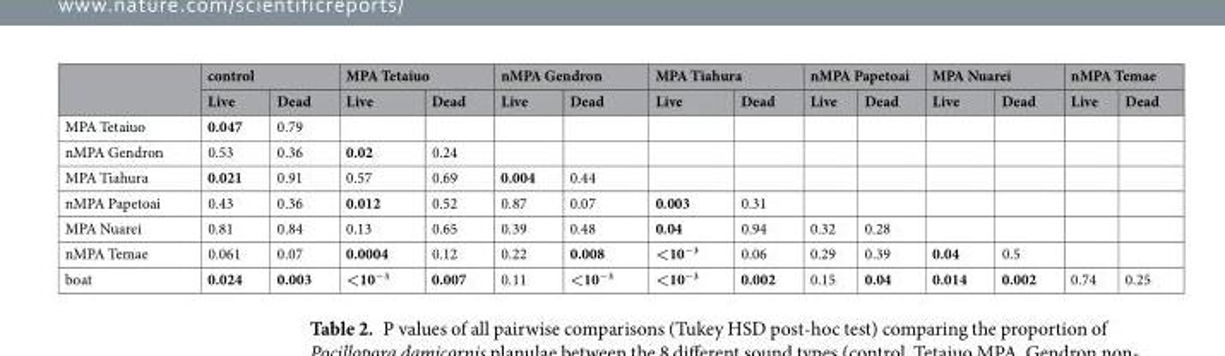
<table><thead><tr><td rowspan="2"></td><td colspan="2">control</td><td colspan="2">MPA Tetaiuo</td><td colspan="2">nMPA Gendron</td><td colspan="2">MPA Tiahura</td><td colspan="2">nMPA Papetoai</td><td colspan="2">MPA Nuarei</td><td colspan="2">nMPA Temae</td></tr><tr><td>Live</td><td>Dead</td><td>Live</td><td>Dead</td><td>Live</td><td>Dead</td><td>Live</td><td>Dead</td><td>Live</td><td>Dead</td><td>Live</td><td>Dead</td><td>Live</td><td>Dead</td></tr></thead><tbody><tr><td>MPA Tetaiuo</td><td>0.047</td><td>0.79</td><td></td><td></td><td></td><td></td><td></td><td></td><td></td><td></td><td></td><td></td><td></td><td></td></tr><tr><td>nMPA Gendron</td><td>0.53</td><td>0.36</td><td>0.02</td><td>0.24</td><td></td><td></td><td></td><td></td><td></td><td></td><td></td><td></td><td></td><td></td></tr><tr><td>MPA Tiahura</td><td>0.021</td><td>0.91</td><td>0.57</td><td>0.69</td><td>0.004</td><td>0.44</td><td></td><td></td><td></td><td></td><td></td><td></td><td></td><td></td></tr><tr><td>nMPA Papetoai</td><td>0.43</td><td>0.36</td><td>0.012</td><td>0.52</td><td>0.87</td><td>0.07</td><td>0.003</td><td>0.31</td><td></td><td></td><td></td><td></td><td></td><td></td></tr><tr><td>MPA Nuarei</td><td>0.81</td><td>0.84</td><td>0.13</td><td>0.65</td><td>0.39</td><td>0.48</td><td>0.04</td><td>0.94</td><td>0.32</td><td>0.28</td><td></td><td></td><td></td><td></td></tr><tr><td>nMPA Temae</td><td>0.061</td><td>0.07</td><td>0.0004</td><td>0.12</td><td>0.22</td><td>0.008</td><td>&lt;10<sup>−3</sup></td><td>0.06</td><td>0.29</td><td>0.39</td><td>0.04</td><td>0.5</td><td></td><td></td></tr><tr><td>boat</td><td>0.024</td><td>0.003</td><td>&lt;10<sup>−3</sup></td><td>0.007</td><td>0.11</td><td>&lt;10<sup>−3</sup></td><td>&lt;10<sup>−3</sup></td><td>0.002</td><td>0.15</td><td>0.04</td><td>0.014</td><td>0.002</td><td>0.74</td><td>0.25</td></tr></tbody></table>